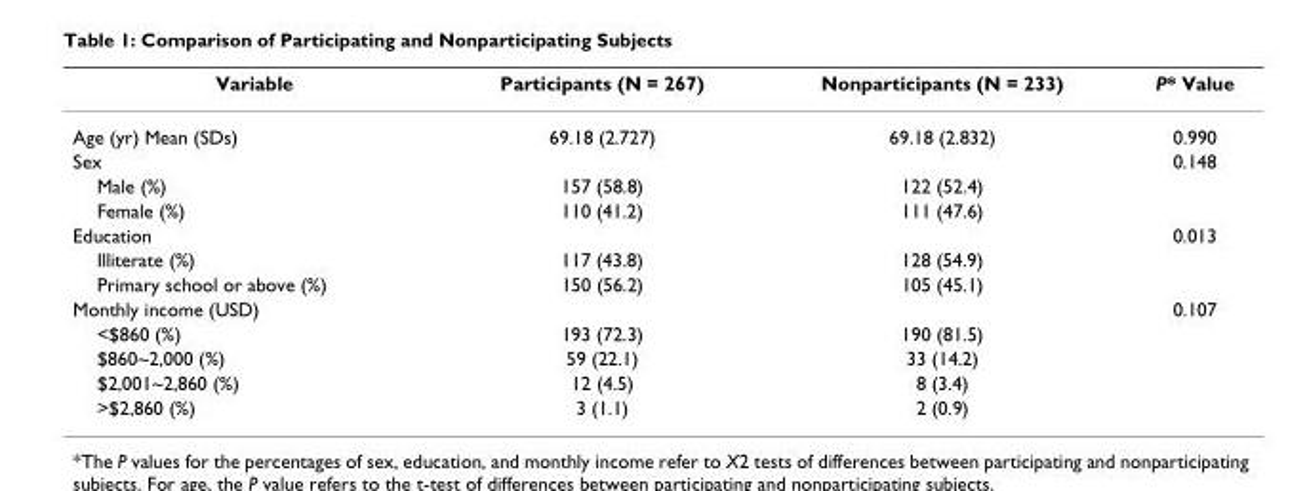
<table><thead><tr><td>Variable</td><td>Participants (N = 267)</td><td>Nonparticipants (N = 233)</td><td>P* Value</td></tr></thead><tbody><tr><td>Age (yr) Mean (SDs)</td><td>69.18 (2.727)</td><td>69.18 (2.832)</td><td>0.990</td></tr><tr><td>Sex</td><td></td><td></td><td>0.148</td></tr><tr><td>Male (%)</td><td>157 (58.8)</td><td>122 (52.4)</td><td></td></tr><tr><td>Female (%)</td><td>110 (41.2)</td><td>111 (47.6)</td><td></td></tr><tr><td>Education</td><td></td><td></td><td>0.013</td></tr><tr><td>Illiterate (%)</td><td>117 (43.8)</td><td>128 (54.9)</td><td></td></tr><tr><td>Primary school or above (%)</td><td>150 (56.2)</td><td>105 (45.1)</td><td></td></tr><tr><td>Monthly income (USD)</td><td></td><td></td><td>0.107</td></tr><tr><td>&lt;$860 (%)</td><td>193 (72.3)</td><td>190 (81.5)</td><td></td></tr><tr><td>$860~2,000 (%)</td><td>59 (22.1)</td><td>33 (14.2)</td><td></td></tr><tr><td>$2,001~2,860 (%)</td><td>12 (4.5)</td><td>8 (3.4)</td><td></td></tr><tr><td>&gt;$2,860 (%)</td><td>3 (1.1)</td><td>2 (0.9)</td><td></td></tr></tbody></table>